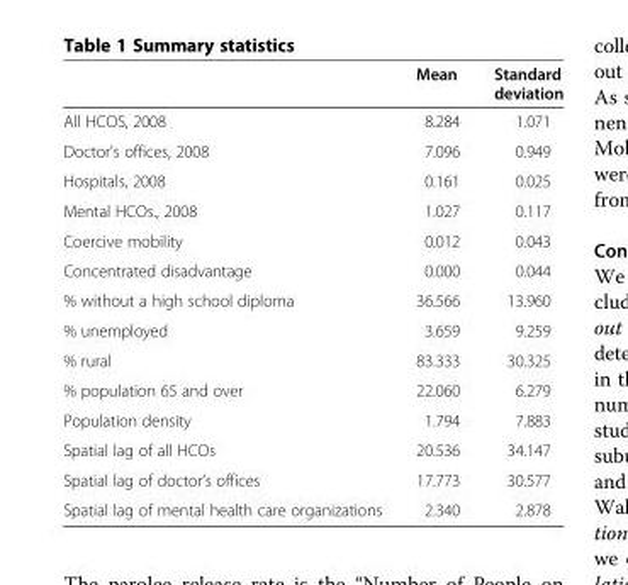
<table><thead><tr><td></td><td>Mean</td><td>Standard deviation</td></tr></thead><tbody><tr><td>All HCOS, 2008</td><td>8.284</td><td>1.071</td></tr><tr><td>Doctor&#x27;s offices, 2008</td><td>7.096</td><td>0.949</td></tr><tr><td>Hospitals, 2008</td><td>0.161</td><td>0.025</td></tr><tr><td>Mental HCOs., 2008</td><td>1.027</td><td>0.117</td></tr><tr><td>Coercive mobility</td><td>0.012</td><td>0.043</td></tr><tr><td>Concentrated disadvantage</td><td>0.000</td><td>0.044</td></tr><tr><td>% without a high school diploma</td><td>36.566</td><td>13.960</td></tr><tr><td>% unemployed</td><td>3.659</td><td>9.259</td></tr><tr><td>% rural</td><td>83.333</td><td>30.325</td></tr><tr><td>% population 65 and over</td><td>22.060</td><td>6.279</td></tr><tr><td>Population density</td><td>1.794</td><td>7.883</td></tr><tr><td>Spatial lag of all HCOs</td><td>20.536</td><td>34.147</td></tr><tr><td>Spatial lag of doctor’s offices</td><td>17.773</td><td>30.577</td></tr><tr><td>Spatial lag of mental health care organizations</td><td>2.340</td><td>2.878</td></tr></tbody></table>